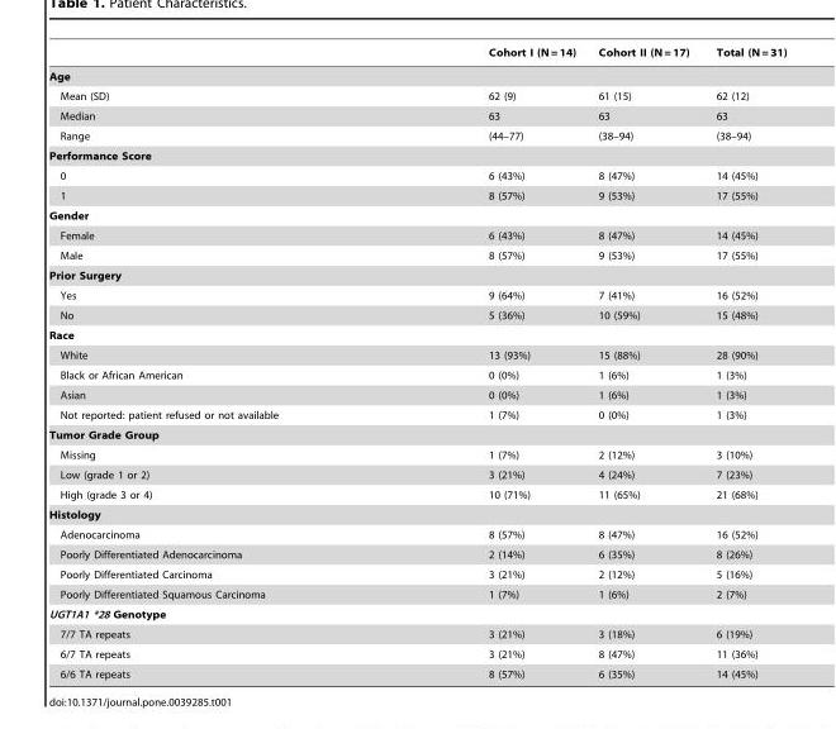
<table><thead><tr><td></td><td>Cohort I (N = 14)</td><td>Cohort II (N = 17)</td><td>Total (N = 31)</td></tr></thead><tbody><tr><td colspan="4">Age</td></tr><tr><td>Mean (SD)</td><td>62 (9)</td><td>61 (15)</td><td>62 (12)</td></tr><tr><td>Median</td><td>63</td><td>63</td><td>63</td></tr><tr><td>Range</td><td>(44–77)</td><td>(38–94)</td><td>(38–94)</td></tr><tr><td colspan="4">Performance Score</td></tr><tr><td>0</td><td>6 (43%)</td><td>8 (47%)</td><td>14 (45%)</td></tr><tr><td>1</td><td>8 (57%)</td><td>9 (53%)</td><td>17 (55%)</td></tr><tr><td colspan="4">Gender</td></tr><tr><td>Female</td><td>6 (43%)</td><td>8 (47%)</td><td>14 (45%)</td></tr><tr><td>Male</td><td>8 (57%)</td><td>9 (53%)</td><td>17 (55%)</td></tr><tr><td colspan="4">Prior Surgery</td></tr><tr><td>Yes</td><td>9 (64%)</td><td>7 (41%)</td><td>16 (52%)</td></tr><tr><td>No</td><td>5 (36%)</td><td>10 (59%)</td><td>15 (48%)</td></tr><tr><td colspan="4">Race</td></tr><tr><td>White</td><td>13 (93%)</td><td>15 (88%)</td><td>28 (90%)</td></tr><tr><td>Black or African American</td><td>0 (0%)</td><td>1 (6%)</td><td>1 (3%)</td></tr><tr><td>Asian</td><td>0 (0%)</td><td>1 (6%)</td><td>1 (3%)</td></tr><tr><td>Not reported: patient refused or not available</td><td>1 (7%)</td><td>0 (0%)</td><td>1 (3%)</td></tr><tr><td colspan="4">Tumor Grade Group</td></tr><tr><td>Missing</td><td>1 (7%)</td><td>2 (12%)</td><td>3 (10%)</td></tr><tr><td>Low (grade 1 or 2)</td><td>3 (21%)</td><td>4 (24%)</td><td>7 (23%)</td></tr><tr><td>High (grade 3 or 4)</td><td>10 (71%)</td><td>11 (65%)</td><td>21 (68%)</td></tr><tr><td colspan="4">Histology</td></tr><tr><td>Adenocarcinoma</td><td>8 (57%)</td><td>8 (47%)</td><td>16 (52%)</td></tr><tr><td>Poorly Differentiated Adenocarcinoma</td><td>2 (14%)</td><td>6 (35%)</td><td>8 (26%)</td></tr><tr><td>Poorly Differentiated Carcinoma</td><td>3 (21%)</td><td>2 (12%)</td><td>5 (16%)</td></tr><tr><td>Poorly Differentiated Squamous Carcinoma</td><td>1 (7%)</td><td>1 (6%)</td><td>2 (7%)</td></tr><tr><td colspan="4">UGT1A1 *28 Genotype</td></tr><tr><td>7/7 TA repeats</td><td>3 (21%)</td><td>3 (18%)</td><td>6 (19%)</td></tr><tr><td>6/7 TA repeats</td><td>3 (21%)</td><td>8 (47%)</td><td>11 (36%)</td></tr><tr><td>6/6 TA repeats</td><td>8 (57%)</td><td>6 (35%)</td><td>14 (45%)</td></tr></tbody></table>